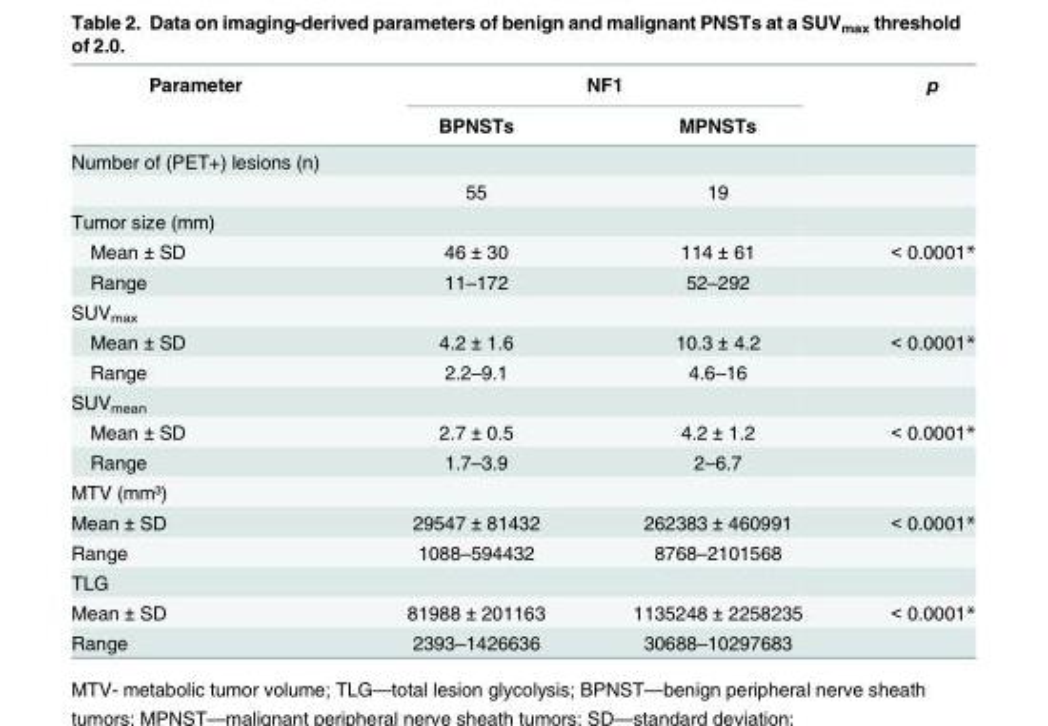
<table><thead><tr><td rowspan="2">Parameter</td><td colspan="2">NF1</td><td rowspan="2">p</td></tr><tr><td>BPNSTs</td><td>MPNSTs</td></tr></thead><tbody><tr><td colspan="4">Number of (PET+) lesions (n)</td></tr><tr><td></td><td>55</td><td>19</td><td></td></tr><tr><td colspan="4">Tumor size (mm)</td></tr><tr><td>Mean ± SD</td><td>46 ± 30</td><td>114 ± 61</td><td>&lt; 0.0001*</td></tr><tr><td>Range</td><td>11–172</td><td>52–292</td><td></td></tr><tr><td colspan="4">SUV<sub>max</sub></td></tr><tr><td>Mean ± SD</td><td>4.2 ± 1.6</td><td>10.3 ± 4.2</td><td>&lt; 0.0001*</td></tr><tr><td>Range</td><td>2.2–9.1</td><td>4.6–16</td><td></td></tr><tr><td colspan="4">SUV<sub>mean</sub></td></tr><tr><td>Mean ± SD</td><td>2.7 ± 0.5</td><td>4.2 ± 1.2</td><td>&lt; 0.0001*</td></tr><tr><td>Range</td><td>1.7–3.9</td><td>2–6.7</td><td></td></tr><tr><td colspan="4">MTV (mm³)</td></tr><tr><td>Mean ± SD</td><td>29547 ± 81432</td><td>262383 ± 460991</td><td>&lt; 0.0001*</td></tr><tr><td>Range</td><td>1088–594432</td><td>8768–2101568</td><td></td></tr><tr><td colspan="4">TLG</td></tr><tr><td>Mean ± SD</td><td>81988 ± 201163</td><td>1135248 ± 2258235</td><td>&lt; 0.0001*</td></tr><tr><td>Range</td><td>2393–1426636</td><td>30688–10297683</td><td></td></tr></tbody></table>